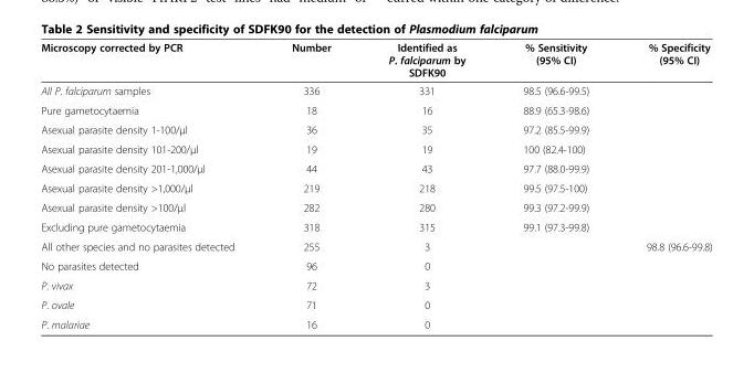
<table><thead><tr><td>Microscopy corrected by PCR</td><td>Number</td><td>Identified as P. falciparum by SDFK90</td><td>% Sensitivity (95% CI)</td><td>% Specificity (95% CI)</td></tr></thead><tbody><tr><td>All P. falciparum samples</td><td>336</td><td>331</td><td>98.5 (96.6-99.5)</td><td></td></tr><tr><td>Pure gametocytaemia</td><td>18</td><td>16</td><td>88.9 (65.3-98.6)</td><td></td></tr><tr><td>Asexual parasite density 1-100/μl</td><td>36</td><td>35</td><td>97.2 (85.5-99.9)</td><td></td></tr><tr><td>Asexual parasite density 101-200/μl</td><td>19</td><td>19</td><td>100 (82.4-100)</td><td></td></tr><tr><td>Asexual parasite density 201-1,000/μl</td><td>44</td><td>43</td><td>97.7 (88.0-99.9)</td><td></td></tr><tr><td>Asexual parasite density &gt;1,000/μl</td><td>219</td><td>218</td><td>99.5 (97.5-100)</td><td></td></tr><tr><td>Asexual parasite density &gt;100/μl</td><td>282</td><td>280</td><td>99.3 (97.2-99.9)</td><td></td></tr><tr><td>Excluding pure gametocytaemia</td><td>318</td><td>315</td><td>99.1 (97.3-99.8)</td><td></td></tr><tr><td>All other species and no parasites detected</td><td>255</td><td>3</td><td></td><td>98.8 (96.6-99.8)</td></tr><tr><td>No parasites detected</td><td>96</td><td>0</td><td></td><td></td></tr><tr><td>P. vivax</td><td>72</td><td>3</td><td></td><td></td></tr><tr><td>P. ovale</td><td>71</td><td>0</td><td></td><td></td></tr><tr><td>P. malariae</td><td>16</td><td>0</td><td></td><td></td></tr></tbody></table>